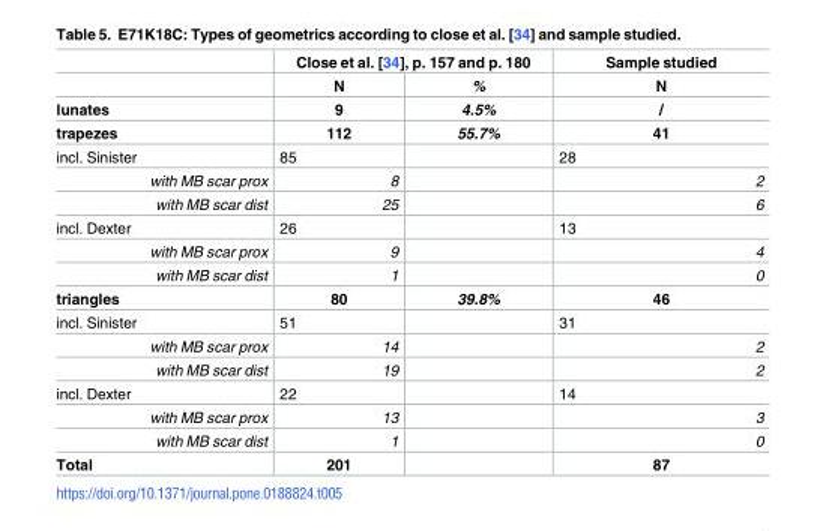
<table><thead><tr><td rowspan="2"></td><td colspan="2">Close et al. [34], p. 157 and p. 180</td><td rowspan="2">Sample studied N</td></tr><tr><td>N</td><td>%</td></tr></thead><tbody><tr><td>lunates</td><td>9</td><td>4.5%</td><td>/</td></tr><tr><td>trapezes</td><td>112</td><td>55.7%</td><td>41</td></tr><tr><td>incl. Sinister</td><td>85</td><td></td><td>28</td></tr><tr><td>with MB scar prox</td><td>8</td><td></td><td>2</td></tr><tr><td>with MB scar dist</td><td>25</td><td></td><td>6</td></tr><tr><td>incl. Dexter</td><td>26</td><td></td><td>13</td></tr><tr><td>with MB scar prox</td><td>9</td><td></td><td>4</td></tr><tr><td>with MB scar dist</td><td>1</td><td></td><td>0</td></tr><tr><td>triangles</td><td>80</td><td>39.8%</td><td>46</td></tr><tr><td>incl. Sinister</td><td>51</td><td></td><td>31</td></tr><tr><td>with MB scar prox</td><td>14</td><td></td><td>2</td></tr><tr><td>with MB scar dist</td><td>19</td><td></td><td>2</td></tr><tr><td>incl. Dexter</td><td>22</td><td></td><td>14</td></tr><tr><td>with MB scar prox</td><td>13</td><td></td><td>3</td></tr><tr><td>with MB scar dist</td><td>1</td><td></td><td>0</td></tr><tr><td>Total</td><td>201</td><td></td><td>87</td></tr></tbody></table>